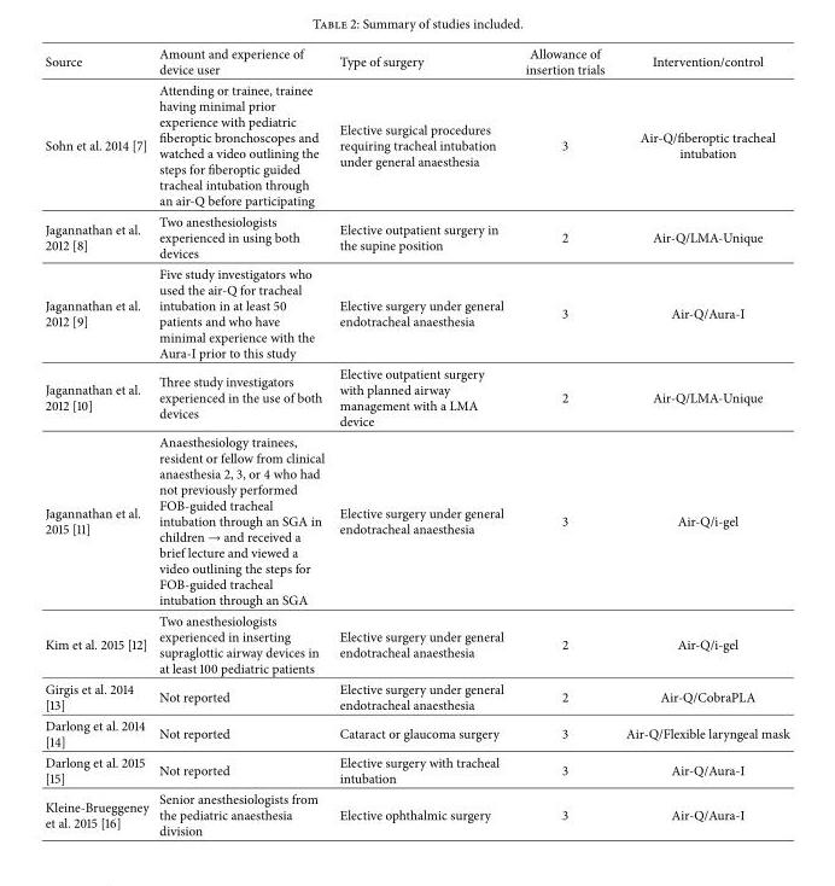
<table><thead><tr><td>Source</td><td>Amount and experience of device user</td><td>Type of surgery</td><td>Allowance of insertion trials</td><td>Intervention/control</td></tr></thead><tbody><tr><td>Sohn et al. 2014 [7]</td><td>Attending or trainee, trainee having minimal prior experience with pediatric fiberoptic bronchoscopes and watched a video outlining the steps for fiberoptic guided tracheal intubation through an air-Q before participating</td><td>Elective surgical procedures requiring tracheal intubation under general anaesthesia</td><td>3</td><td>Air-Q/fiberoptic tracheal intubation</td></tr><tr><td>Jagannathan et al. 2012 [8]</td><td>Two anesthesiologists experienced in using both devices</td><td>Elective outpatient surgery in the supine position</td><td>2</td><td>Air-Q/LMA-Unique</td></tr><tr><td>Jagannathan et al. 2012 [9]</td><td>Five study investigators who used the air-Q for tracheal intubation in at least 50 patients and who have minimal experience with the Aura-I prior to this study</td><td>Elective surgery under general endotracheal anaesthesia</td><td>3</td><td>Air-Q/Aura-I</td></tr><tr><td>Jagannathan et al. 2012 [10]</td><td>Three study investigators experienced in the use of both devices</td><td>Elective outpatient surgery with planned airway management with a LMA device</td><td>2</td><td>Air-Q/LMA-Unique</td></tr><tr><td>Jagannathan et al. 2015 [11]</td><td>Anaesthesiology trainees, resident or fellow from clinical anaesthesia 2, 3, or 4 who had not previously performed FOB-guided tracheal intubation through an SGA in children → and received a brief lecture and viewed a video outlining the steps for FOB-guided tracheal intubation through an SGA</td><td>Elective surgery under general endotracheal anaesthesia</td><td>3</td><td>Air-Q/i-gel</td></tr><tr><td>Kim et al. 2015 [12]</td><td>Two anesthesiologists experienced in inserting supraglottic airway devices in at least 100 pediatric patients</td><td>Elective surgery under general endotracheal anaesthesia</td><td>2</td><td>Air-Q/i-gel</td></tr><tr><td>Girgis et al. 2014 [13]</td><td>Not reported</td><td>Elective surgery under general endotracheal anaesthesia</td><td>2</td><td>Air-Q/CobraPLA</td></tr><tr><td>Darlong et al. 2014 [14]</td><td>Not reported</td><td>Cataract or glaucoma surgery</td><td>3</td><td>Air-Q/Flexible laryngeal mask</td></tr><tr><td>Darlong et al. 2015 [15]</td><td>Not reported</td><td>Elective surgery with tracheal intubation</td><td>3</td><td>Air-Q/Aura-I</td></tr><tr><td>Kleine-Brueggeney et al. 2015 [16]</td><td>Senior anesthesiologists from the pediatric anaesthesia division</td><td>Elective ophthalmic surgery</td><td>3</td><td>Air-Q/Aura-I</td></tr></tbody></table>